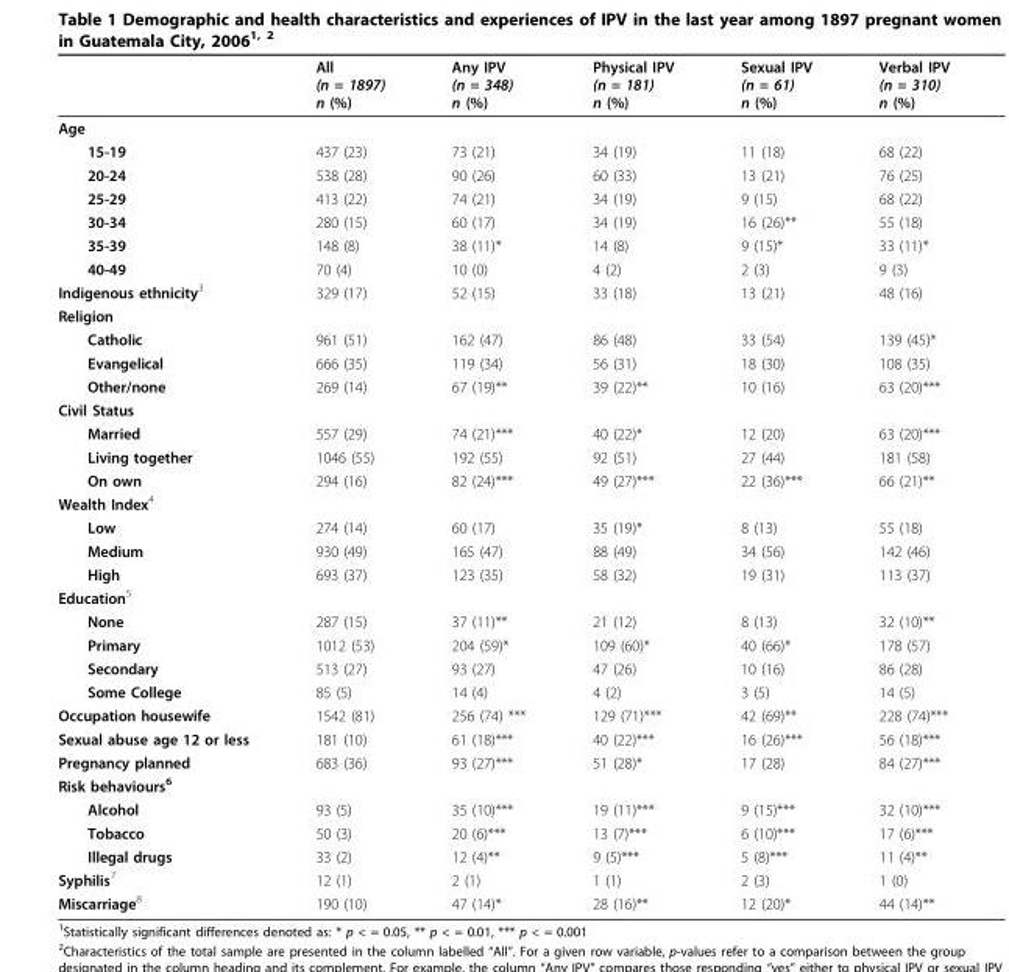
<table><thead><tr><td></td><td>All (n = 1897) n (%)</td><td>Any IPV (n = 348) n (%)</td><td>Physical IPV (n = 181) n (%)</td><td>Sexual IPV (n = 61) n (%)</td><td>Verbal IPV (n = 310) n (%)</td></tr></thead><tbody><tr><td colspan="6">Age</td></tr><tr><td>15-19</td><td>437 (23)</td><td>73 (21)</td><td>34 (19)</td><td>11 (18)</td><td>68 (22)</td></tr><tr><td>20-24</td><td>538 (28)</td><td>90 (26)</td><td>60 (33)</td><td>13 (21)</td><td>76 (25)</td></tr><tr><td>25-29</td><td>413 (22)</td><td>74 (21)</td><td>34 (19)</td><td>9 (15)</td><td>68 (22)</td></tr><tr><td>30-34</td><td>280 (15)</td><td>60 (17)</td><td>34 (19)</td><td>16 (26)**</td><td>55 (18)</td></tr><tr><td>35-39</td><td>148 (8)</td><td>38 (11)*</td><td>14 (8)</td><td>9 (15)*</td><td>33 (11)*</td></tr><tr><td>40-49</td><td>70 (4)</td><td>10 (0)</td><td>4 (2)</td><td>2 (3)</td><td>9 (3)</td></tr><tr><td>Indigenous ethnicity<sup>3</sup></td><td>329 (17)</td><td>52 (15)</td><td>33 (18)</td><td>13 (21)</td><td>48 (16)</td></tr><tr><td colspan="6">Religion</td></tr><tr><td>Catholic</td><td>961 (51)</td><td>162 (47)</td><td>86 (48)</td><td>33 (54)</td><td>139 (45)*</td></tr><tr><td>Evangelical</td><td>666 (35)</td><td>119 (34)</td><td>56 (31)</td><td>18 (30)</td><td>108 (35)</td></tr><tr><td>Other/none</td><td>269 (14)</td><td>67 (19)**</td><td>39 (22)**</td><td>10 (16)</td><td>63 (20)***</td></tr><tr><td colspan="6">Civil Status</td></tr><tr><td>Married</td><td>557 (29)</td><td>74 (21)***</td><td>40 (22)*</td><td>12 (20)</td><td>63 (20)***</td></tr><tr><td>Living together</td><td>1046 (55)</td><td>192 (55)</td><td>92 (51)</td><td>27 (44)</td><td>181 (58)</td></tr><tr><td>On own</td><td>294 (16)</td><td>82 (24)***</td><td>49 (27)***</td><td>22 (36)***</td><td>66 (21)**</td></tr><tr><td colspan="6">Wealth Index<sup>4</sup></td></tr><tr><td>Low</td><td>274 (14)</td><td>60 (17)</td><td>35 (19)*</td><td>8 (13)</td><td>55 (18)</td></tr><tr><td>Medium</td><td>930 (49)</td><td>165 (47)</td><td>88 (49)</td><td>34 (56)</td><td>142 (46)</td></tr><tr><td>High</td><td>693 (37)</td><td>123 (35)</td><td>58 (32)</td><td>19 (31)</td><td>113 (37)</td></tr><tr><td colspan="6">Education<sup>5</sup></td></tr><tr><td>None</td><td>287 (15)</td><td>37 (11)**</td><td>21 (12)</td><td>8 (13)</td><td>32 (10)**</td></tr><tr><td>Primary</td><td>1012 (53)</td><td>204 (59)*</td><td>109 (60)*</td><td>40 (66)*</td><td>178 (57)</td></tr><tr><td>Secondary</td><td>513 (27)</td><td>93 (27)</td><td>47 (26)</td><td>10 (16)</td><td>86 (28)</td></tr><tr><td>Some College</td><td>85 (5)</td><td>14 (4)</td><td>4 (2)</td><td>3 (5)</td><td>14 (5)</td></tr><tr><td>Occupation housewife</td><td>1542 (81)</td><td>256 (74) ***</td><td>129 (71)***</td><td>42 (69)**</td><td>228 (74)***</td></tr><tr><td>Sexual abuse age 12 or less</td><td>181 (10)</td><td>61 (18)***</td><td>40 (22)***</td><td>16 (26)***</td><td>56 (18)***</td></tr><tr><td>Pregnancy planned</td><td>683 (36)</td><td>93 (27)***</td><td>51 (28)*</td><td>17 (28)</td><td>84 (27)***</td></tr><tr><td colspan="6">Risk behaviours<sup>6</sup></td></tr><tr><td>Alcohol</td><td>93 (5)</td><td>35 (10)***</td><td>19 (11)***</td><td>9 (15)***</td><td>32 (10)***</td></tr><tr><td>Tobacco</td><td>50 (3)</td><td>20 (6)***</td><td>13 (7)***</td><td>6 (10)***</td><td>17 (6)***</td></tr><tr><td>Illegal drugs</td><td>33 (2)</td><td>12 (4)**</td><td>9 (5)***</td><td>5 (8)***</td><td>11 (4)**</td></tr><tr><td>Syphilis<sup>7</sup></td><td>12 (1)</td><td>2 (1)</td><td>1 (1)</td><td>2 (3)</td><td>1 (0)</td></tr><tr><td>Miscarriage<sup>8</sup></td><td>190 (10)</td><td>47 (14)*</td><td>28 (16)**</td><td>12 (20)*</td><td>44 (14)**</td></tr></tbody></table>